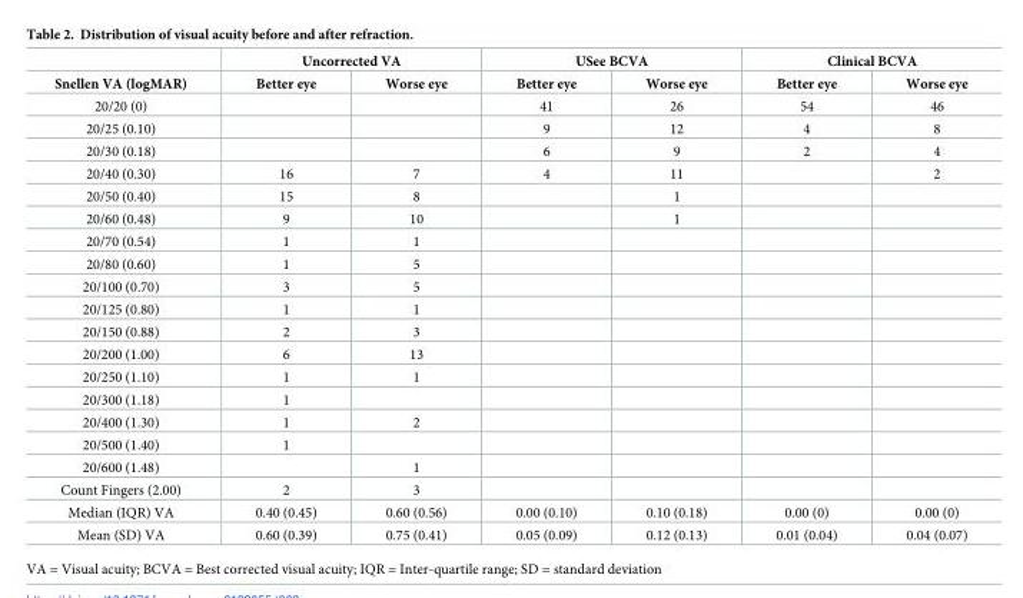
<table><thead><tr><td rowspan="2">Snellen VA (logMAR)</td><td colspan="2">Uncorrected VA</td><td colspan="2">USee BCVA</td><td colspan="2">Clinical BCVA</td></tr><tr><td>Better eye</td><td>Worse eye</td><td>Better eye</td><td>Worse eye</td><td>Better eye</td><td>Worse eye</td></tr></thead><tbody><tr><td>20/20 (0)</td><td></td><td></td><td>41</td><td>26</td><td>54</td><td>46</td></tr><tr><td>20/25 (0.10)</td><td></td><td></td><td>9</td><td>12</td><td>4</td><td>8</td></tr><tr><td>20/30 (0.18)</td><td></td><td></td><td>6</td><td>9</td><td>2</td><td>4</td></tr><tr><td>20/40 (0.30)</td><td>16</td><td>7</td><td>4</td><td>11</td><td></td><td>2</td></tr><tr><td>20/50 (0.40)</td><td>15</td><td>8</td><td></td><td>1</td><td></td><td></td></tr><tr><td>20/60 (0.48)</td><td>9</td><td>10</td><td></td><td>1</td><td></td><td></td></tr><tr><td>20/70 (0.54)</td><td>1</td><td>1</td><td></td><td></td><td></td><td></td></tr><tr><td>20/80 (0.60)</td><td>1</td><td>5</td><td></td><td></td><td></td><td></td></tr><tr><td>20/100 (0.70)</td><td>3</td><td>5</td><td></td><td></td><td></td><td></td></tr><tr><td>20/125 (0.80)</td><td>1</td><td>1</td><td></td><td></td><td></td><td></td></tr><tr><td>20/150 (0.88)</td><td>2</td><td>3</td><td></td><td></td><td></td><td></td></tr><tr><td>20/200 (1.00)</td><td>6</td><td>13</td><td></td><td></td><td></td><td></td></tr><tr><td>20/250 (1.10)</td><td>1</td><td>1</td><td></td><td></td><td></td><td></td></tr><tr><td>20/300 (1.18)</td><td>1</td><td></td><td></td><td></td><td></td><td></td></tr><tr><td>20/400 (1.30)</td><td>1</td><td>2</td><td></td><td></td><td></td><td></td></tr><tr><td>20/500 (1.40)</td><td>1</td><td></td><td></td><td></td><td></td><td></td></tr><tr><td>20/600 (1.48)</td><td></td><td>1</td><td></td><td></td><td></td><td></td></tr><tr><td>Count Fingers (2.00)</td><td>2</td><td>3</td><td></td><td></td><td></td><td></td></tr><tr><td>Median (IQR) VA</td><td>0.40 (0.45)</td><td>0.60 (0.56)</td><td>0.00 (0.10)</td><td>0.10 (0.18)</td><td>0.00 (0)</td><td>0.00 (0)</td></tr><tr><td>Mean (SD) VA</td><td>0.60 (0.39)</td><td>0.75 (0.41)</td><td>0.05 (0.09)</td><td>0.12 (0.13)</td><td>0.01 (0.04)</td><td>0.04 (0.07)</td></tr></tbody></table>